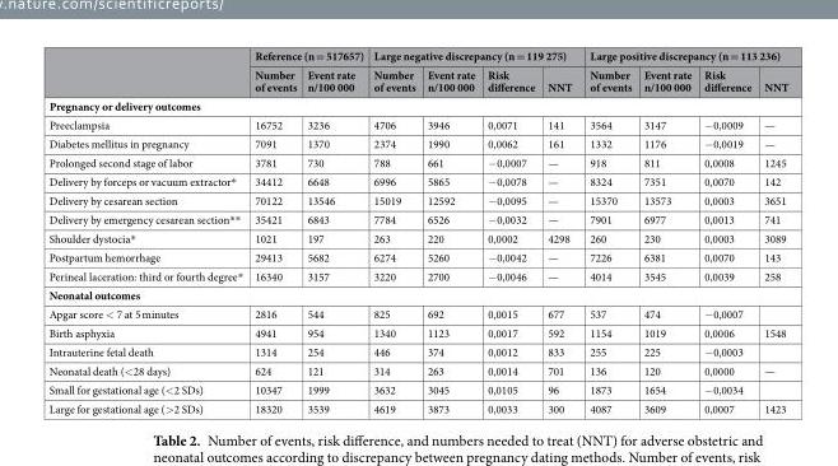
<table><thead><tr><td rowspan="2"></td><td colspan="2">Reference (n = 517657)</td><td colspan="4">Large negative discrepancy (n = 119 275)</td><td colspan="4">Large positive discrepancy (n = 113 236)</td></tr><tr><td>Number of events</td><td>Event rate n/100 000</td><td>Number of events</td><td>Event rate n/100 000</td><td>Risk difference</td><td>NNT</td><td>Number of events</td><td>Event rate n/100 000</td><td>Risk difference</td><td>NNT</td></tr></thead><tbody><tr><td colspan="11">Pregnancy or delivery outcomes</td></tr><tr><td>Preeclampsia</td><td>16752</td><td>3236</td><td>4706</td><td>3946</td><td>0,0071</td><td>141</td><td>3564</td><td>3147</td><td>−0,0009</td><td>—</td></tr><tr><td>Diabetes mellitus in pregnancy</td><td>7091</td><td>1370</td><td>2374</td><td>1990</td><td>0,0062</td><td>161</td><td>1332</td><td>1176</td><td>−0,0019</td><td>—</td></tr><tr><td>Prolonged second stage of labor</td><td>3781</td><td>730</td><td>788</td><td>661</td><td>−0,0007</td><td>—</td><td>918</td><td>811</td><td>0,0008</td><td>1245</td></tr><tr><td>Delivery by forceps or vacuum extractor*</td><td>34412</td><td>6648</td><td>6996</td><td>5865</td><td>−0,0078</td><td>—</td><td>8324</td><td>7351</td><td>0,0070</td><td>142</td></tr><tr><td>Delivery by cesarean section</td><td>70122</td><td>13546</td><td>15019</td><td>12592</td><td>−0,0095</td><td>—</td><td>15370</td><td>13573</td><td>0,0003</td><td>3651</td></tr><tr><td>Delivery by emergency cesarean section**</td><td>35421</td><td>6843</td><td>7784</td><td>6526</td><td>−0,0032</td><td>—</td><td>7901</td><td>6977</td><td>0,0013</td><td>741</td></tr><tr><td>Shoulder dystocia*</td><td>1021</td><td>197</td><td>263</td><td>220</td><td>0,0002</td><td>4298</td><td>260</td><td>230</td><td>0,0003</td><td>3089</td></tr><tr><td>Postpartum hemorrhage</td><td>29413</td><td>5682</td><td>6274</td><td>5260</td><td>−0,0042</td><td>—</td><td>7226</td><td>6381</td><td>0,0070</td><td>143</td></tr><tr><td>Perineal laceration: third or fourth degree*</td><td>16340</td><td>3157</td><td>3220</td><td>2700</td><td>−0,0046</td><td>—</td><td>4014</td><td>3545</td><td>0,0039</td><td>258</td></tr><tr><td colspan="11">Neonatal outcomes</td></tr><tr><td>Apgar score &lt; 7 at 5 minutes</td><td>2816</td><td>544</td><td>825</td><td>692</td><td>0,0015</td><td>677</td><td>537</td><td>474</td><td>−0,0007</td><td></td></tr><tr><td>Birth asphyxia</td><td>4941</td><td>954</td><td>1340</td><td>1123</td><td>0,0017</td><td>592</td><td>1154</td><td>1019</td><td>0,0006</td><td>1548</td></tr><tr><td>Intrauterine fetal death</td><td>1314</td><td>254</td><td>446</td><td>374</td><td>0,0012</td><td>833</td><td>255</td><td>225</td><td>−0,0003</td><td></td></tr><tr><td>Neonatal death (&lt;28 days)</td><td>624</td><td>121</td><td>314</td><td>263</td><td>0,0014</td><td>701</td><td>136</td><td>120</td><td>0,0000</td><td>—</td></tr><tr><td>Small for gestational age (&lt;2 SDs)</td><td>10347</td><td>1999</td><td>3632</td><td>3045</td><td>0,0105</td><td>96</td><td>1873</td><td>1654</td><td>−0,0034</td><td></td></tr><tr><td>Large for gestational age (&gt;2 SDs)</td><td>18320</td><td>3539</td><td>4619</td><td>3873</td><td>0,0033</td><td>300</td><td>4087</td><td>3609</td><td>0,0007</td><td>1423</td></tr></tbody></table>